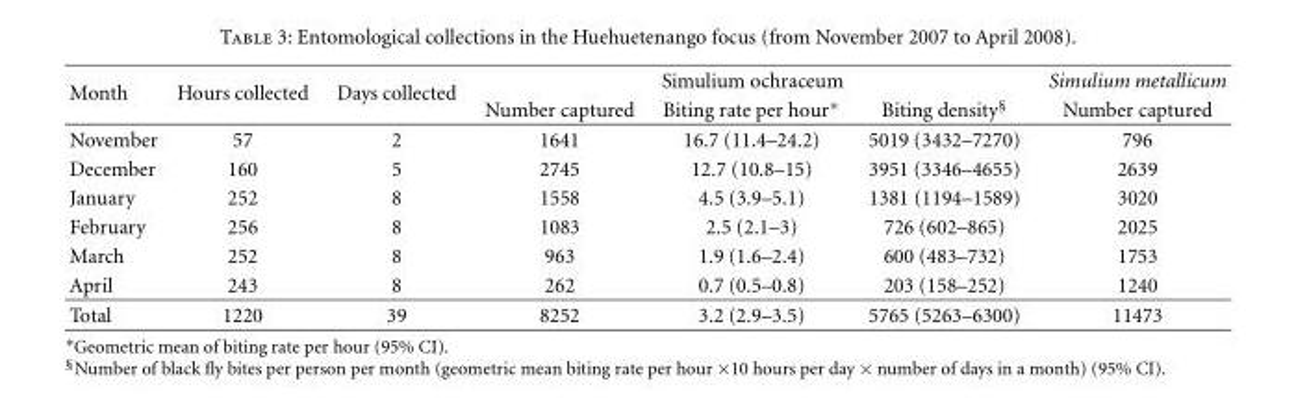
<table><thead><tr><td rowspan="2">Month</td><td rowspan="2">Hours collected</td><td rowspan="2">Days collected</td><td colspan="3">Simulium ochraceum</td><td rowspan="2">Simulium metallicum Number captured</td></tr><tr><td>Number captured</td><td>Biting rate per hour∗</td><td>Biting density<sup>§</sup></td></tr></thead><tbody><tr><td>November</td><td>57</td><td>2</td><td>1641</td><td>16.7 (11.4–24.2)</td><td>5019 (3432–7270)</td><td>796</td></tr><tr><td>December</td><td>160</td><td>5</td><td>2745</td><td>12.7 (10.8–15)</td><td>3951 (3346–4655)</td><td>2639</td></tr><tr><td>January</td><td>252</td><td>8</td><td>1558</td><td>4.5 (3.9–5.1)</td><td>1381 (1194–1589)</td><td>3020</td></tr><tr><td>February</td><td>256</td><td>8</td><td>1083</td><td>2.5 (2.1–3)</td><td>726 (602–865)</td><td>2025</td></tr><tr><td>March</td><td>252</td><td>8</td><td>963</td><td>1.9 (1.6–2.4)</td><td>600 (483–732)</td><td>1753</td></tr><tr><td>April</td><td>243</td><td>8</td><td>262</td><td>0.7 (0.5–0.8)</td><td>203 (158–252)</td><td>1240</td></tr><tr><td>Total</td><td>1220</td><td>39</td><td>8252</td><td>3.2 (2.9–3.5)</td><td>5765 (5263–6300)</td><td>11473</td></tr></tbody></table>